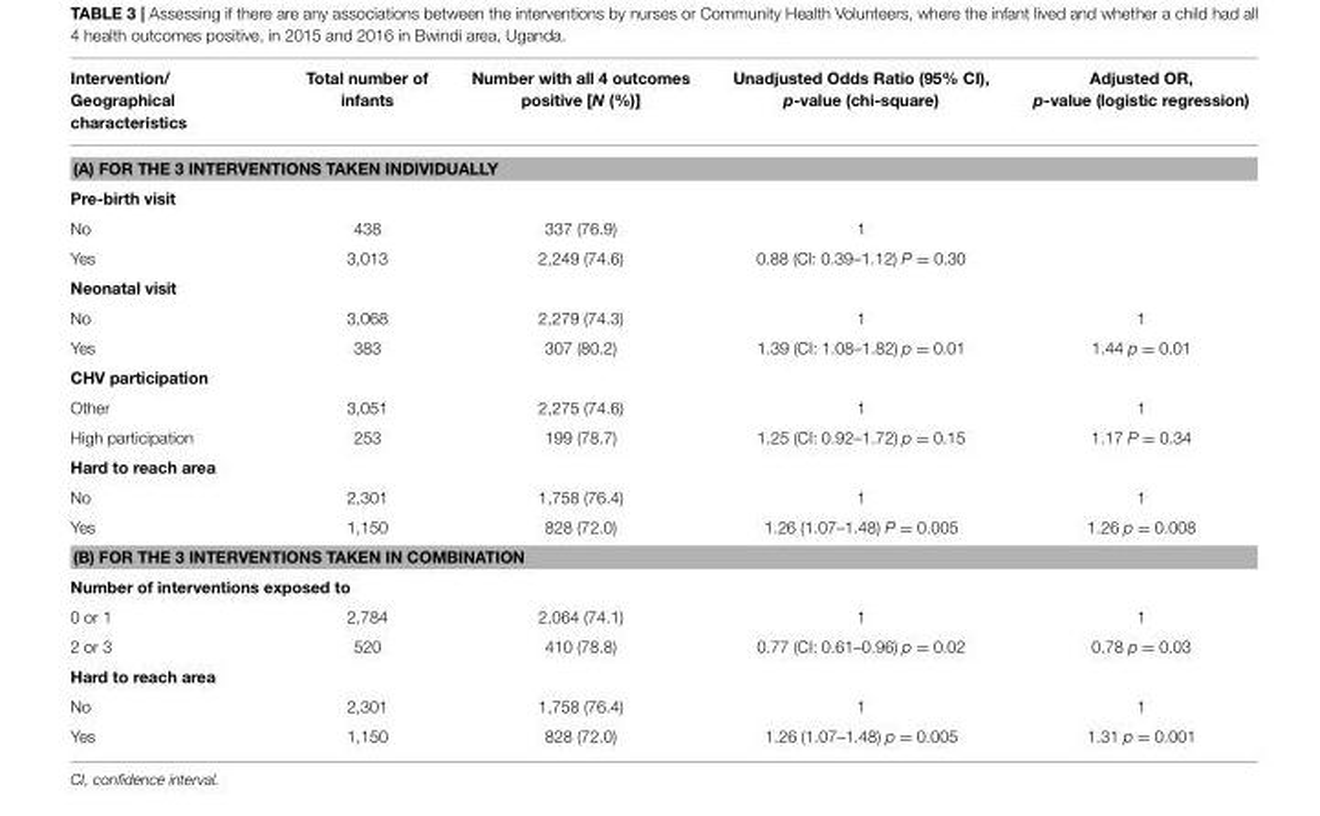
<table><thead><tr><td>Intervention/ Geographical characteristics</td><td>Total number of infants</td><td>Number with all 4 outcomes positive [N (%)]</td><td>Unadjusted Odds Ratio (95% CI), p-value (chi-square)</td><td>Adjusted OR, p-value (logistic regression)</td></tr></thead><tbody><tr><td colspan="5">(A) FOR THE 3 INTERVENTIONS TAKEN INDIVIDUALLY</td></tr><tr><td colspan="5">Pre-birth visit</td></tr><tr><td>No</td><td>438</td><td>337 (76.9)</td><td>1</td><td></td></tr><tr><td>Yes</td><td>3,013</td><td>2,249 (74.6)</td><td>0.88 (CI: 0.39–1.12) P = 0.30</td><td></td></tr><tr><td colspan="5">Neonatal visit</td></tr><tr><td>No</td><td>3,068</td><td>2,279 (74.3)</td><td>1</td><td>1</td></tr><tr><td>Yes</td><td>383</td><td>307 (80.2)</td><td>1.39 (CI: 1.08–1.82) p = 0.01</td><td>1.44 p = 0.01</td></tr><tr><td colspan="5">CHV participation</td></tr><tr><td>Other</td><td>3,051</td><td>2,275 (74.6)</td><td>1</td><td>1</td></tr><tr><td>High participation</td><td>253</td><td>199 (78.7)</td><td>1.25 (CI: 0.92–1.72) p = 0.15</td><td>1.17 P = 0.34</td></tr><tr><td colspan="5">Hard to reach area</td></tr><tr><td>No</td><td>2,301</td><td>1,758 (76.4)</td><td>1</td><td>1</td></tr><tr><td>Yes</td><td>1,150</td><td>828 (72.0)</td><td>1.26 (1.07–1.48) P = 0.005</td><td>1.26 p = 0.008</td></tr><tr><td colspan="5">(B) FOR THE 3 INTERVENTIONS TAKEN IN COMBINATION</td></tr><tr><td colspan="5">Number of interventions exposed to</td></tr><tr><td>0 or 1</td><td>2,784</td><td>2,064 (74.1)</td><td>1</td><td>1</td></tr><tr><td>2 or 3</td><td>520</td><td>410 (78.8)</td><td>0.77 (CI: 0.61–0.96) p = 0.02</td><td>0.78 p = 0.03</td></tr><tr><td colspan="5">Hard to reach area</td></tr><tr><td>No</td><td>2,301</td><td>1,758 (76.4)</td><td>1</td><td>1</td></tr><tr><td>Yes</td><td>1,150</td><td>828 (72.0)</td><td>1.26 (1.07–1.48) p = 0.005</td><td>1.31 p = 0.001</td></tr></tbody></table>